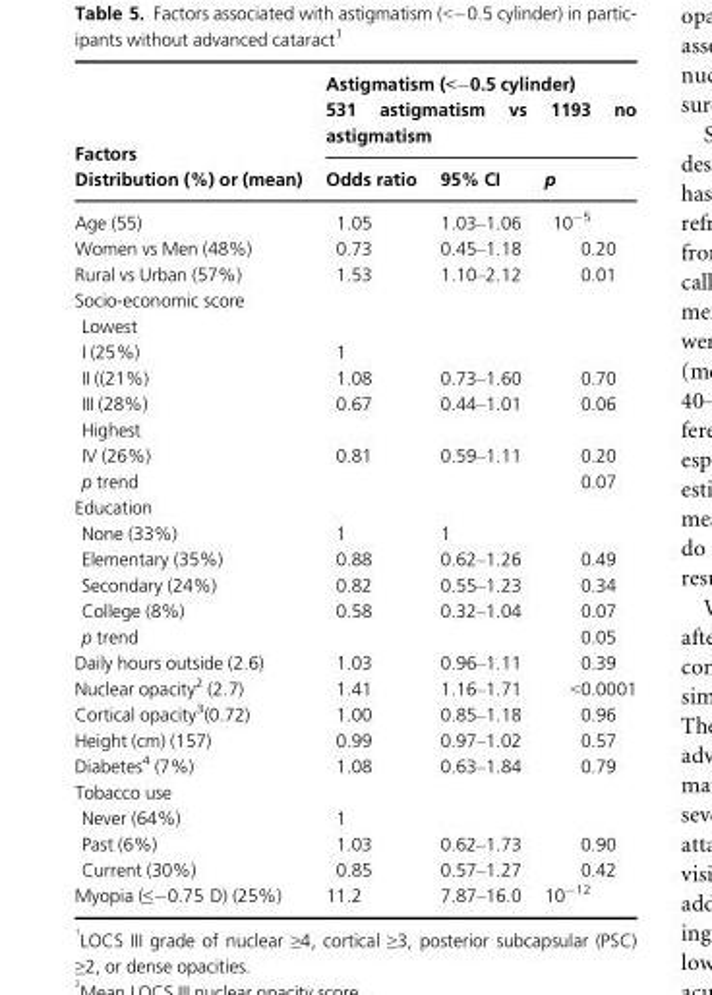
<table><thead><tr><td rowspan="2">Factors Distribution (%) or (mean)</td><td colspan="3">Astigmatism (&lt;−0.5 cylinder) 531 astigmatism vs 1193 no astigmatism</td></tr><tr><td>Odds ratio</td><td>95% CI</td><td>p</td></tr></thead><tbody><tr><td>Age (55)</td><td>1.05</td><td>1.03–1.06</td><td>10<sup>−5</sup></td></tr><tr><td>Women vs Men (48%)</td><td>0.73</td><td>0.45–1.18</td><td>0.20</td></tr><tr><td>Rural vs Urban (57%)</td><td>1.53</td><td>1.10–2.12</td><td>0.01</td></tr><tr><td colspan="4">Socio-economic score</td></tr><tr><td colspan="4">Lowest</td></tr><tr><td>I (25%)</td><td>1</td><td></td><td></td></tr><tr><td>II ((21%)</td><td>1.08</td><td>0.73–1.60</td><td>0.70</td></tr><tr><td>III (28%)</td><td>0.67</td><td>0.44–1.01</td><td>0.06</td></tr><tr><td colspan="4">Highest</td></tr><tr><td>IV (26%)</td><td>0.81</td><td>0.59–1.11</td><td>0.20</td></tr><tr><td>p trend</td><td></td><td></td><td>0.07</td></tr><tr><td colspan="4">Education</td></tr><tr><td>None (33%)</td><td>1</td><td>1</td><td></td></tr><tr><td>Elementary (35%)</td><td>0.88</td><td>0.62–1.26</td><td>0.49</td></tr><tr><td>Secondary (24%)</td><td>0.82</td><td>0.55–1.23</td><td>0.34</td></tr><tr><td>College (8%)</td><td>0.58</td><td>0.32–1.04</td><td>0.07</td></tr><tr><td>p trend</td><td></td><td></td><td>0.05</td></tr><tr><td>Daily hours outside (2.6)</td><td>1.03</td><td>0.96–1.11</td><td>0.39</td></tr><tr><td>Nuclear opacity2 (2.7)</td><td>1.41</td><td>1.16–1.71</td><td>&lt;0.0001</td></tr><tr><td>Cortical opacity3(0.72)</td><td>1.00</td><td>0.85–1.18</td><td>0.96</td></tr><tr><td>Height (cm) (157)</td><td>0.99</td><td>0.97–1.02</td><td>0.57</td></tr><tr><td>Diabetes4 (7%)</td><td>1.08</td><td>0.63–1.84</td><td>0.79</td></tr><tr><td colspan="4">Tobacco use</td></tr><tr><td>Never (64%)</td><td>1</td><td></td><td></td></tr><tr><td>Past (6%)</td><td>1.03</td><td>0.62–1.73</td><td>0.90</td></tr><tr><td>Current (30%)</td><td>0.85</td><td>0.57–1.27</td><td>0.42</td></tr><tr><td>Myopia (≤−0.75 D) (25%)</td><td>11.2</td><td>7.87–16.0</td><td>10<sup>−12</sup></td></tr></tbody></table>